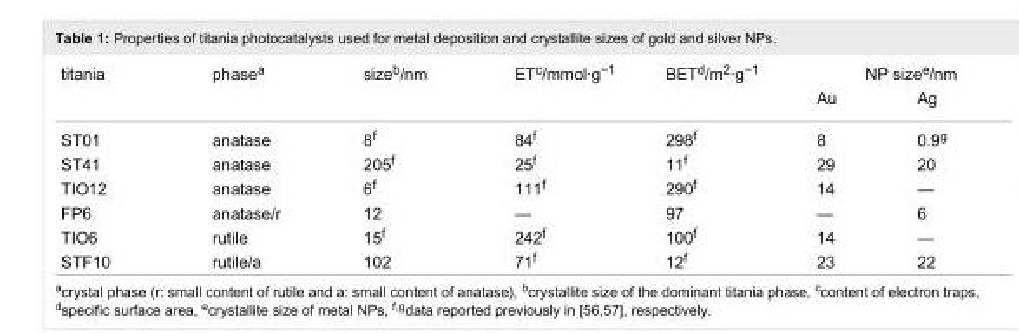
<table><tbody><tr><td rowspan="2">titania</td><td rowspan="2">phase<sup>a</sup></td><td rowspan="2">size<sup>b</sup>/nm</td><td rowspan="2">ET<sup>c</sup>/mmol·g<sup>−1</sup></td><td rowspan="2">BET<sup>d</sup>/m<sup>2</sup>·g<sup>−1</sup></td><td colspan="2">NP size<sup>e</sup>/nm</td></tr><tr><td>Au</td><td>Ag</td></tr><tr><td>ST01</td><td>anatase</td><td>8<sup>f</sup></td><td>84<sup>f</sup></td><td>298<sup>f</sup></td><td>8</td><td>0.9<sup>g</sup></td></tr><tr><td>ST41</td><td>anatase</td><td>205<sup>f</sup></td><td>25<sup>f</sup></td><td>11<sup>f</sup></td><td>29</td><td>20</td></tr><tr><td>TIO12</td><td>anatase</td><td>6<sup>f</sup></td><td>111<sup>f</sup></td><td>290<sup>f</sup></td><td>14</td><td>—</td></tr><tr><td>FP6</td><td>anatase/r</td><td>12</td><td>—</td><td>97</td><td>—</td><td>6</td></tr><tr><td>TIO6</td><td>rutile</td><td>15<sup>f</sup></td><td>242<sup>f</sup></td><td>100<sup>f</sup></td><td>14</td><td>—</td></tr><tr><td>STF10</td><td>rutile/a</td><td>102</td><td>71<sup>f</sup></td><td>12<sup>f</sup></td><td>23</td><td>22</td></tr></tbody></table>